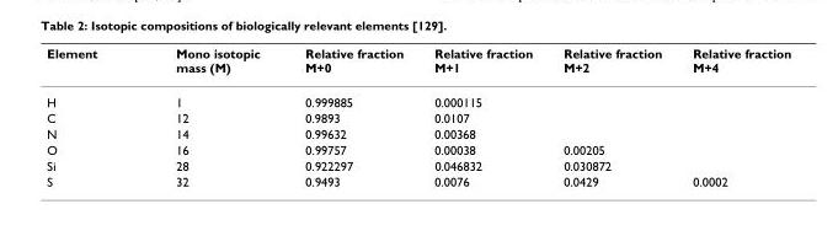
<table><thead><tr><td>Element</td><td>Mono isotopic mass (M)</td><td>Relative fraction M+0</td><td>Relative fraction M+1</td><td>Relative fraction M+2</td><td>Relative fraction M+4</td></tr></thead><tbody><tr><td>H</td><td>1</td><td>0.999885</td><td>0.000115</td><td></td><td></td></tr><tr><td>C</td><td>12</td><td>0.9893</td><td>0.0107</td><td></td><td></td></tr><tr><td>N</td><td>14</td><td>0.99632</td><td>0.00368</td><td></td><td></td></tr><tr><td>O</td><td>16</td><td>0.99757</td><td>0.00038</td><td>0.00205</td><td></td></tr><tr><td>Si</td><td>28</td><td>0.922297</td><td>0.046832</td><td>0.030872</td><td></td></tr><tr><td>S</td><td>32</td><td>0.9493</td><td>0.0076</td><td>0.0429</td><td>0.0002</td></tr></tbody></table>